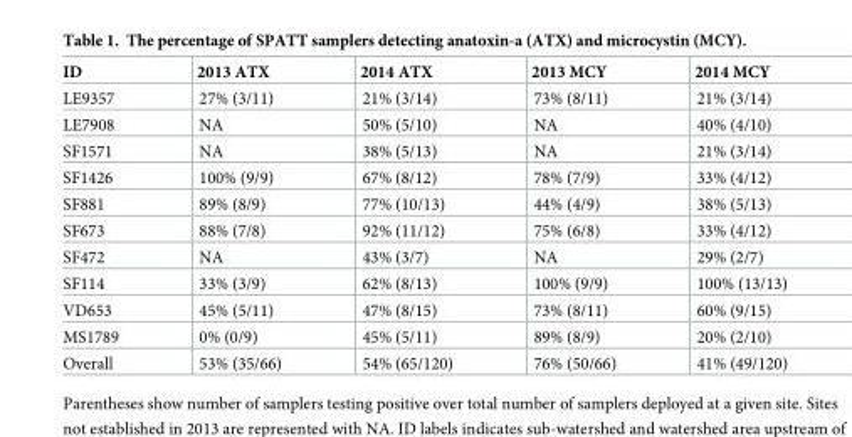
<table><thead><tr><td>ID</td><td>2013 ATX</td><td>2014 ATX</td><td>2013 MCY</td><td>2014 MCY</td></tr></thead><tbody><tr><td>LE9357</td><td>27% (3/11)</td><td>21% (3/14)</td><td>73% (8/11)</td><td>21% (3/14)</td></tr><tr><td>LE7908</td><td>NA</td><td>50% (5/10)</td><td>NA</td><td>40% (4/10)</td></tr><tr><td>SF1571</td><td>NA</td><td>38% (5/13)</td><td>NA</td><td>21% (3/14)</td></tr><tr><td>SF1426</td><td>100% (9/9)</td><td>67% (8/12)</td><td>78% (7/9)</td><td>33% (4/12)</td></tr><tr><td>SF881</td><td>89% (8/9)</td><td>77% (10/13)</td><td>44% (4/9)</td><td>38% (5/13)</td></tr><tr><td>SF673</td><td>88% (7/8)</td><td>92% (11/12)</td><td>75% (6/8)</td><td>33% (4/12)</td></tr><tr><td>SF472</td><td>NA</td><td>43% (3/7)</td><td>NA</td><td>29% (2/7)</td></tr><tr><td>SF114</td><td>33% (3/9)</td><td>62% (8/13)</td><td>100% (9/9)</td><td>100% (13/13)</td></tr><tr><td>VD653</td><td>45% (5/11)</td><td>47% (8/15)</td><td>73% (8/11)</td><td>60% (9/15)</td></tr><tr><td>MS1789</td><td>0% (0/9)</td><td>45% (5/11)</td><td>89% (8/9)</td><td>20% (2/10)</td></tr><tr><td>Overall</td><td>53% (35/66)</td><td>54% (65/120)</td><td>76% (50/66)</td><td>41% (49/120)</td></tr></tbody></table>